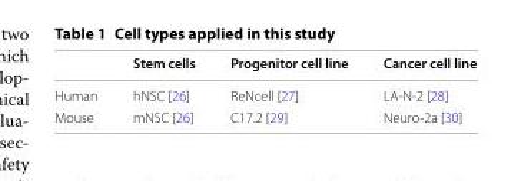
<table><thead><tr><td></td><td>Stem cells</td><td>Progenitor cell line</td><td>Cancer cell line</td></tr></thead><tbody><tr><td>Human</td><td>hNSC [26]</td><td>ReNcell [27]</td><td>LA-N-2 [28]</td></tr><tr><td>Mouse</td><td>mNSC [26]</td><td>C17.2 [29]</td><td>Neuro-2a [30]</td></tr></tbody></table>